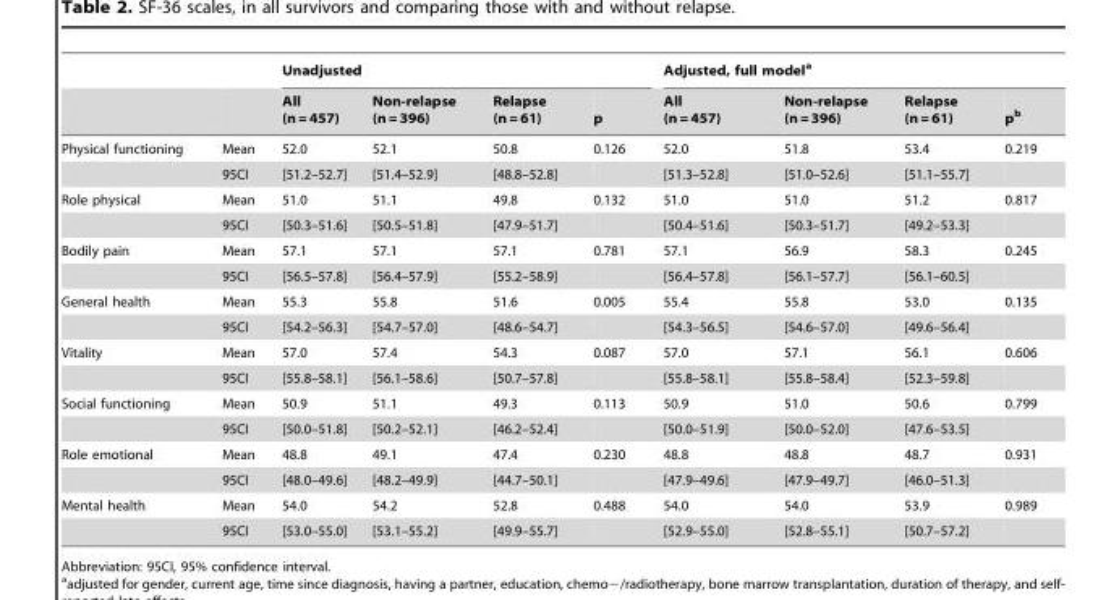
<table><thead><tr><td rowspan="2"></td><td rowspan="2"></td><td colspan="4">Unadjusted</td><td colspan="4">Adjusted, full model<sup>a</sup></td></tr><tr><td>All (n = 457)</td><td>Non-relapse (n = 396)</td><td>Relapse (n = 61)</td><td>p</td><td>All (n = 457)</td><td>Non-relapse (n = 396)</td><td>Relapse (n = 61)</td><td>p<sup>b</sup></td></tr></thead><tbody><tr><td rowspan="2">Physical functioning</td><td>Mean</td><td>52.0</td><td>52.1</td><td>50.8</td><td>0.126</td><td>52.0</td><td>51.8</td><td>53.4</td><td>0.219</td></tr><tr><td>95CI</td><td>[51.2–52.7]</td><td>[51.4–52.9]</td><td>[48.8–52.8]</td><td></td><td>[51.3–52.8]</td><td>[51.0–52.6]</td><td>[51.1–55.7]</td><td></td></tr><tr><td rowspan="2">Role physical</td><td>Mean</td><td>51.0</td><td>51.1</td><td>49.8</td><td>0.132</td><td>51.0</td><td>51.0</td><td>51.2</td><td>0.817</td></tr><tr><td>95CI</td><td>[50.3–51.6]</td><td>[50.5–51.8]</td><td>[47.9–51.7]</td><td></td><td>[50.4–51.6]</td><td>[50.3–51.7]</td><td>[49.2–53.3]</td><td></td></tr><tr><td rowspan="2">Bodily pain</td><td>Mean</td><td>57.1</td><td>57.1</td><td>57.1</td><td>0.781</td><td>57.1</td><td>56.9</td><td>58.3</td><td>0.245</td></tr><tr><td>95CI</td><td>[56.5–57.8]</td><td>[56.4–57.9]</td><td>[55.2–58.9]</td><td></td><td>[56.4–57.8]</td><td>[56.1–57.7]</td><td>[56.1–60.5]</td><td></td></tr><tr><td rowspan="2">General health</td><td>Mean</td><td>55.3</td><td>55.8</td><td>51.6</td><td>0.005</td><td>55.4</td><td>55.8</td><td>53.0</td><td>0.135</td></tr><tr><td>95CI</td><td>[54.2–56.3]</td><td>[54.7–57.0]</td><td>[48.6–54.7]</td><td></td><td>[54.3–56.5]</td><td>[54.6–57.0]</td><td>[49.6–56.4]</td><td></td></tr><tr><td rowspan="2">Vitality</td><td>Mean</td><td>57.0</td><td>57.4</td><td>54.3</td><td>0.087</td><td>57.0</td><td>57.1</td><td>56.1</td><td>0.606</td></tr><tr><td>95CI</td><td>[55.8–58.1]</td><td>[56.1–58.6]</td><td>[50.7–57.8]</td><td></td><td>[55.8–58.1]</td><td>[55.8–58.4]</td><td>[52.3–59.8]</td><td></td></tr><tr><td rowspan="2">Social functioning</td><td>Mean</td><td>50.9</td><td>51.1</td><td>49.3</td><td>0.113</td><td>50.9</td><td>51.0</td><td>50.6</td><td>0.799</td></tr><tr><td>95CI</td><td>[50.0–51.8]</td><td>[50.2–52.1]</td><td>[46.2–52.4]</td><td></td><td>[50.0–51.9]</td><td>[50.0–52.0]</td><td>[47.6–53.5]</td><td></td></tr><tr><td rowspan="2">Role emotional</td><td>Mean</td><td>48.8</td><td>49.1</td><td>47.4</td><td>0.230</td><td>48.8</td><td>48.8</td><td>48.7</td><td>0.931</td></tr><tr><td>95CI</td><td>[48.0–49.6]</td><td>[48.2–49.9]</td><td>[44.7–50.1]</td><td></td><td>[47.9–49.6]</td><td>[47.9–49.7]</td><td>[46.0–51.3]</td><td></td></tr><tr><td rowspan="2">Mental health</td><td>Mean</td><td>54.0</td><td>54.2</td><td>52.8</td><td>0.488</td><td>54.0</td><td>54.0</td><td>53.9</td><td>0.989</td></tr><tr><td>95CI</td><td>[53.0–55.0]</td><td>[53.1–55.2]</td><td>[49.9–55.7]</td><td></td><td>[52.9–55.0]</td><td>[52.8–55.1]</td><td>[50.7–57.2]</td><td></td></tr></tbody></table>